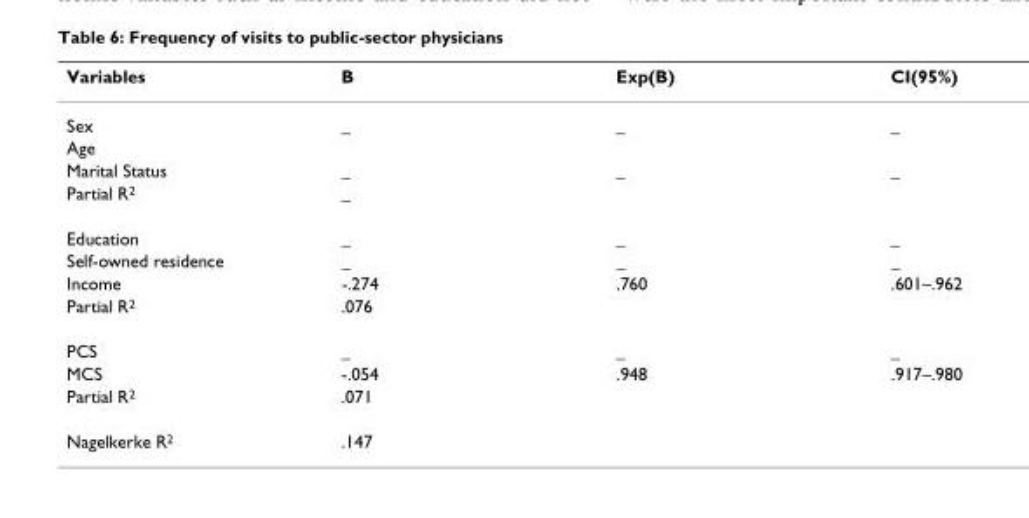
<table><thead><tr><td>Variables</td><td>B</td><td>Exp(B)</td><td>CI(95%)</td></tr></thead><tbody><tr><td>Sex</td><td>_</td><td>_</td><td>_</td></tr><tr><td colspan="4">Age</td></tr><tr><td>Marital Status</td><td>_</td><td>_</td><td>_</td></tr><tr><td>Partial R2</td><td>_</td><td></td><td></td></tr><tr><td>Education</td><td>_</td><td>_</td><td>_</td></tr><tr><td>Self-owned residence</td><td>_</td><td>_</td><td>_</td></tr><tr><td>Income</td><td>-.274</td><td>.760</td><td>.601–.962</td></tr><tr><td>Partial R2</td><td>.076</td><td></td><td></td></tr><tr><td>PCS</td><td>_</td><td>_</td><td>_</td></tr><tr><td>MCS</td><td>-.054</td><td>.948</td><td>.917–.980</td></tr><tr><td>Partial R2</td><td>.071</td><td></td><td></td></tr><tr><td>Nagelkerke R2</td><td>.147</td><td></td><td></td></tr></tbody></table>